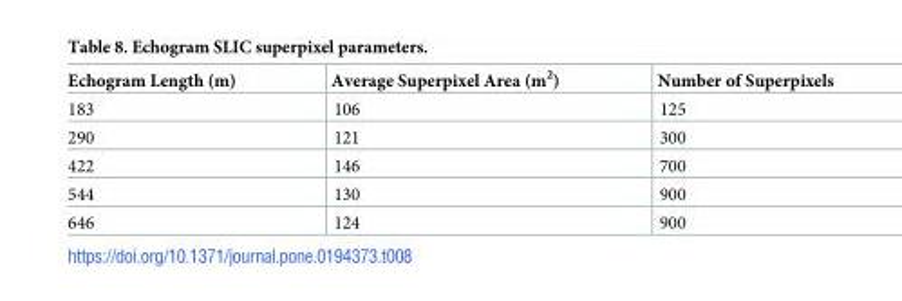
<table><thead><tr><td>Echogram Length (m)</td><td>Average Superpixel Area (m<sup>2</sup>)</td><td>Number of Superpixels</td></tr></thead><tbody><tr><td>183</td><td>106</td><td>125</td></tr><tr><td>290</td><td>121</td><td>300</td></tr><tr><td>422</td><td>146</td><td>700</td></tr><tr><td>544</td><td>130</td><td>900</td></tr><tr><td>646</td><td>124</td><td>900</td></tr></tbody></table>